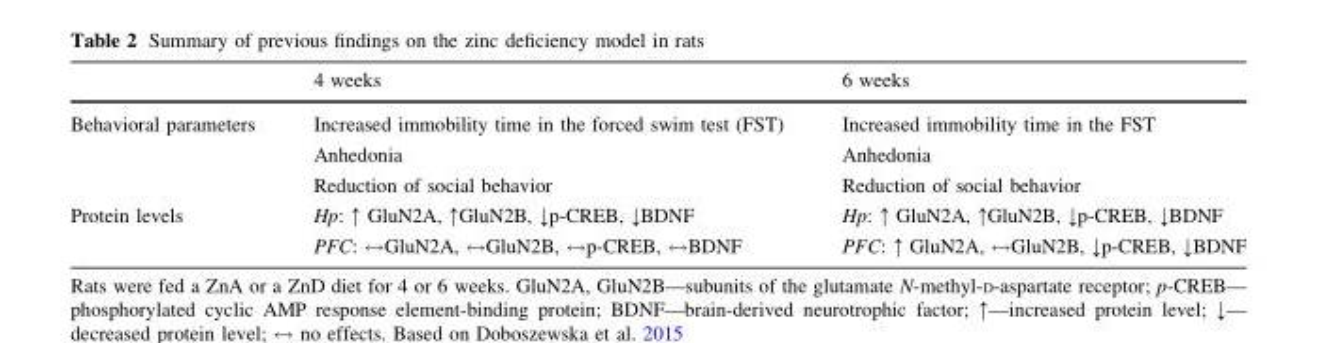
<table><thead><tr><td></td><td>4 weeks</td><td>6 weeks</td></tr></thead><tbody><tr><td>Behavioral parameters</td><td>Increased immobility time in the forced swim test (FST) Anhedonia Reduction of social behavior</td><td>Increased immobility time in the FST Anhedonia Reduction of social behavior</td></tr><tr><td rowspan="2">Protein levels</td><td>Hp: ↑ GluN2A, ↑GluN2B, ↓p-CREB, ↓BDNF</td><td>Hp: ↑ GluN2A, ↑GluN2B, ↓p-CREB, ↓BDNF</td></tr><tr><td>PFC: ↔GluN2A, ↔GluN2B, ↔p-CREB, ↔BDNF</td><td>PFC: ↑ GluN2A, ↔GluN2B, ↓p-CREB, ↓BDNF</td></tr></tbody></table>